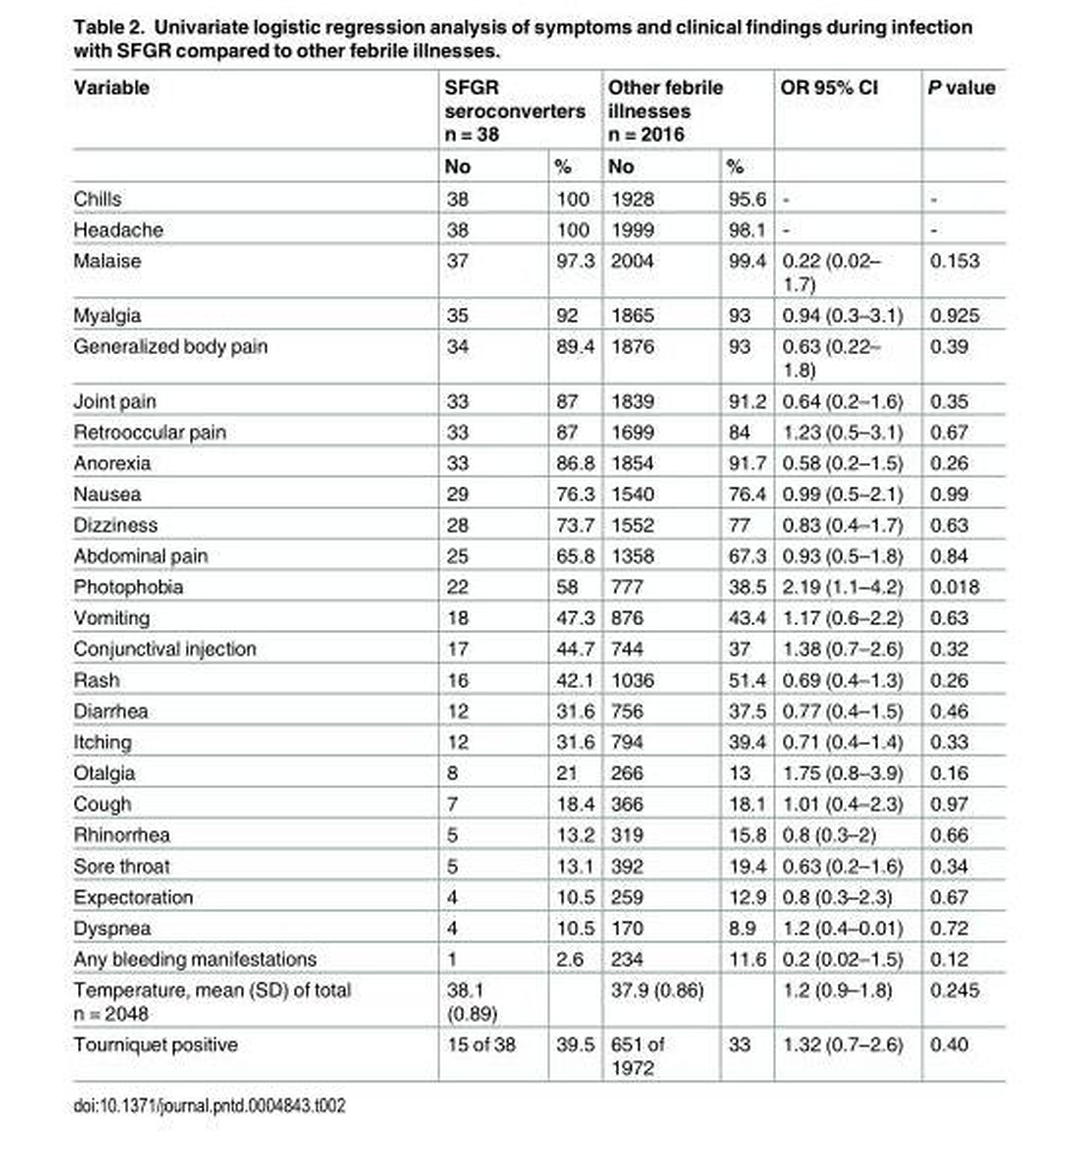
<table><thead><tr><td rowspan="2">Variable</td><td colspan="2">SFGR seroconverters n = 38</td><td colspan="2">Other febrile illnesses n = 2016</td><td rowspan="2">OR 95% CI</td><td rowspan="2">P value</td></tr><tr><td>No</td><td>%</td><td>No</td><td>%</td></tr></thead><tbody><tr><td>Chills</td><td>38</td><td>100</td><td>1928</td><td>95.6</td><td>-</td><td>-</td></tr><tr><td>Headache</td><td>38</td><td>100</td><td>1999</td><td>98.1</td><td>-</td><td>-</td></tr><tr><td>Malaise</td><td>37</td><td>97.3</td><td>2004</td><td>99.4</td><td>0.22 (0.02– 1.7)</td><td>0.153</td></tr><tr><td>Myalgia</td><td>35</td><td>92</td><td>1865</td><td>93</td><td>0.94 (0.3–3.1)</td><td>0.925</td></tr><tr><td>Generalized body pain</td><td>34</td><td>89.4</td><td>1876</td><td>93</td><td>0.63 (0.22– 1.8)</td><td>0.39</td></tr><tr><td>Joint pain</td><td>33</td><td>87</td><td>1839</td><td>91.2</td><td>0.64 (0.2–1.6)</td><td>0.35</td></tr><tr><td>Retrooccular pain</td><td>33</td><td>87</td><td>1699</td><td>84</td><td>1.23 (0.5–3.1)</td><td>0.67</td></tr><tr><td>Anorexia</td><td>33</td><td>86.8</td><td>1854</td><td>91.7</td><td>0.58 (0.2–1.5)</td><td>0.26</td></tr><tr><td>Nausea</td><td>29</td><td>76.3</td><td>1540</td><td>76.4</td><td>0.99 (0.5–2.1)</td><td>0.99</td></tr><tr><td>Dizziness</td><td>28</td><td>73.7</td><td>1552</td><td>77</td><td>0.83 (0.4–1.7)</td><td>0.63</td></tr><tr><td>Abdominal pain</td><td>25</td><td>65.8</td><td>1358</td><td>67.3</td><td>0.93 (0.5–1.8)</td><td>0.84</td></tr><tr><td>Photophobia</td><td>22</td><td>58</td><td>777</td><td>38.5</td><td>2.19 (1.1–4.2)</td><td>0.018</td></tr><tr><td>Vomiting</td><td>18</td><td>47.3</td><td>876</td><td>43.4</td><td>1.17 (0.6–2.2)</td><td>0.63</td></tr><tr><td>Conjunctival injection</td><td>17</td><td>44.7</td><td>744</td><td>37</td><td>1.38 (0.7–2.6)</td><td>0.32</td></tr><tr><td>Rash</td><td>16</td><td>42.1</td><td>1036</td><td>51.4</td><td>0.69 (0.4–1.3)</td><td>0.26</td></tr><tr><td>Diarrhea</td><td>12</td><td>31.6</td><td>756</td><td>37.5</td><td>0.77 (0.4–1.5)</td><td>0.46</td></tr><tr><td>Itching</td><td>12</td><td>31.6</td><td>794</td><td>39.4</td><td>0.71 (0.4–1.4)</td><td>0.33</td></tr><tr><td>Otalgia</td><td>8</td><td>21</td><td>266</td><td>13</td><td>1.75 (0.8–3.9)</td><td>0.16</td></tr><tr><td>Cough</td><td>7</td><td>18.4</td><td>366</td><td>18.1</td><td>1.01 (0.4–2.3)</td><td>0.97</td></tr><tr><td>Rhinorrhea</td><td>5</td><td>13.2</td><td>319</td><td>15.8</td><td>0.8 (0.3–2)</td><td>0.66</td></tr><tr><td>Sore throat</td><td>5</td><td>13.1</td><td>392</td><td>19.4</td><td>0.63 (0.2–1.6)</td><td>0.34</td></tr><tr><td>Expectoration</td><td>4</td><td>10.5</td><td>259</td><td>12.9</td><td>0.8 (0.3–2.3)</td><td>0.67</td></tr><tr><td>Dyspnea</td><td>4</td><td>10.5</td><td>170</td><td>8.9</td><td>1.2 (0.4–0.01)</td><td>0.72</td></tr><tr><td>Any bleeding manifestations</td><td>1</td><td>2.6</td><td>234</td><td>11.6</td><td>0.2 (0.02–1.5)</td><td>0.12</td></tr><tr><td>Temperature, mean (SD) of total n = 2048</td><td>38.1 (0.89)</td><td></td><td>37.9 (0.86)</td><td></td><td>1.2 (0.9–1.8)</td><td>0.245</td></tr><tr><td>Tourniquet positive</td><td>15 of 38</td><td>39.5</td><td>651 of 1972</td><td>33</td><td>1.32 (0.7–2.6)</td><td>0.40</td></tr></tbody></table>